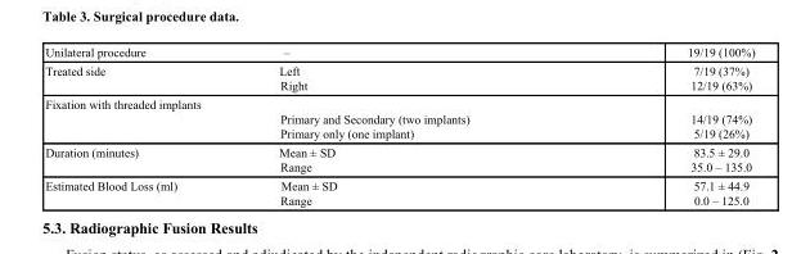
<table><tbody><tr><td>Unilateral procedure –</td><td>19/19 (100%)</td></tr><tr><td>Treated side Left Right</td><td>7/19 (37%) 12/19 (63%)</td></tr><tr><td>Fixation with threaded implants Primary and Secondary (two implants) Primary only (one implant)</td><td>14/19 (74%) 5/19 (26%)</td></tr><tr><td>Duration (minutes) Mean ± SD Range</td><td>83.5 ± 29.0 35.0 – 135.0</td></tr><tr><td>Estimated Blood Loss (ml) Mean ± SD Range</td><td>57.1 ± 44.9 0.0 – 125.0</td></tr></tbody></table>